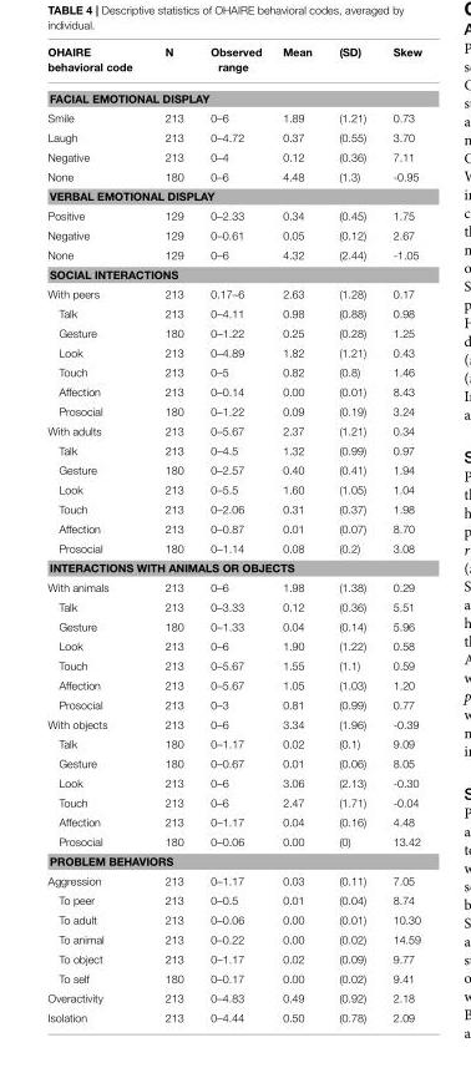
<table><thead><tr><td>OHAIRE behavioral code</td><td>N</td><td>Observed range</td><td>Mean</td><td>(SD)</td><td>Skew</td></tr></thead><tbody><tr><td colspan="6">FACIAL EMOTIONAL DISPLAY</td></tr><tr><td>Smile</td><td>213</td><td>0–6</td><td>1.89</td><td>(1.21)</td><td>0.73</td></tr><tr><td>Laugh</td><td>213</td><td>0–4.72</td><td>0.37</td><td>(0.55)</td><td>3.70</td></tr><tr><td>Negative</td><td>213</td><td>0–4</td><td>0.12</td><td>(0.36)</td><td>7.11</td></tr><tr><td>None</td><td>180</td><td>0–6</td><td>4.48</td><td>(1.3)</td><td>-0.95</td></tr><tr><td colspan="6">VERBAL EMOTIONAL DISPLAY</td></tr><tr><td>Positive</td><td>129</td><td>0–2.33</td><td>0.34</td><td>(0.45)</td><td>1.75</td></tr><tr><td>Negative</td><td>129</td><td>0–0.61</td><td>0.05</td><td>(0.12)</td><td>2.67</td></tr><tr><td>None</td><td>129</td><td>0–6</td><td>4.32</td><td>(2.44)</td><td>-1.05</td></tr><tr><td colspan="6">SOCIAL INTERACTIONS</td></tr><tr><td>With peers</td><td>213</td><td>0.17–6</td><td>2.63</td><td>(1.28)</td><td>0.17</td></tr><tr><td>Talk</td><td>213</td><td>0–4.11</td><td>0.98</td><td>(0.88)</td><td>0.98</td></tr><tr><td>Gesture</td><td>180</td><td>0–1.22</td><td>0.25</td><td>(0.28)</td><td>1.25</td></tr><tr><td>Look</td><td>213</td><td>0–4.89</td><td>1.82</td><td>(1.21)</td><td>0.43</td></tr><tr><td>Touch</td><td>213</td><td>0–5</td><td>0.82</td><td>(0.8)</td><td>1.46</td></tr><tr><td>Affection</td><td>213</td><td>0–0.14</td><td>0.00</td><td>(0.01)</td><td>8.43</td></tr><tr><td>Prosocial</td><td>180</td><td>0–1.22</td><td>0.09</td><td>(0.19)</td><td>3.24</td></tr><tr><td>With adults</td><td>213</td><td>0–5.67</td><td>2.37</td><td>(1.21)</td><td>0.34</td></tr><tr><td>Talk</td><td>213</td><td>0–4.5</td><td>1.32</td><td>(0.99)</td><td>0.97</td></tr><tr><td>Gesture</td><td>180</td><td>0–2.57</td><td>0.40</td><td>(0.41)</td><td>1.94</td></tr><tr><td>Look</td><td>213</td><td>0–5.5</td><td>1.60</td><td>(1.05)</td><td>1.04</td></tr><tr><td>Touch</td><td>213</td><td>0–2.06</td><td>0.31</td><td>(0.37)</td><td>1.98</td></tr><tr><td>Affection</td><td>213</td><td>0–0.87</td><td>0.01</td><td>(0.07)</td><td>8.70</td></tr><tr><td>Prosocial</td><td>180</td><td>0–1.14</td><td>0.08</td><td>(0.2)</td><td>3.08</td></tr><tr><td colspan="6">INTERACTIONS WITH ANIMALS OR OBJECTS</td></tr><tr><td>With animals</td><td>213</td><td>0–6</td><td>1.98</td><td>(1.38)</td><td>0.29</td></tr><tr><td>Talk</td><td>213</td><td>0–3.33</td><td>0.12</td><td>(0.36)</td><td>5.51</td></tr><tr><td>Gesture</td><td>180</td><td>0–1.33</td><td>0.04</td><td>(0.14)</td><td>5.96</td></tr><tr><td>Look</td><td>213</td><td>0–6</td><td>1.90</td><td>(1.22)</td><td>0.58</td></tr><tr><td>Touch</td><td>213</td><td>0–5.67</td><td>1.55</td><td>(1.1)</td><td>0.59</td></tr><tr><td>Affection</td><td>213</td><td>0–5.67</td><td>1.05</td><td>(1.03)</td><td>1.20</td></tr><tr><td>Prosocial</td><td>213</td><td>0–3</td><td>0.81</td><td>(0.99)</td><td>0.77</td></tr><tr><td>With objects</td><td>213</td><td>0–6</td><td>3.34</td><td>(1.96)</td><td>-0.39</td></tr><tr><td>Talk</td><td>180</td><td>0–1.17</td><td>0.02</td><td>(0.1)</td><td>9.09</td></tr><tr><td>Gesture</td><td>180</td><td>0–0.67</td><td>0.01</td><td>(0.06)</td><td>8.05</td></tr><tr><td>Look</td><td>213</td><td>0–6</td><td>3.06</td><td>(2.13)</td><td>-0.30</td></tr><tr><td>Touch</td><td>213</td><td>0–6</td><td>2.47</td><td>(1.71)</td><td>-0.04</td></tr><tr><td>Affection</td><td>213</td><td>0–1.17</td><td>0.04</td><td>(0.16)</td><td>4.48</td></tr><tr><td>Prosocial</td><td>180</td><td>0–0.06</td><td>0.00</td><td>(0)</td><td>13.42</td></tr><tr><td colspan="6">PROBLEM BEHAVIORS</td></tr><tr><td>Aggression</td><td>213</td><td>0–1.17</td><td>0.03</td><td>(0.11)</td><td>7.05</td></tr><tr><td>To peer</td><td>213</td><td>0–0.5</td><td>0.01</td><td>(0.04)</td><td>8.74</td></tr><tr><td>To adult</td><td>213</td><td>0–0.06</td><td>0.00</td><td>(0.01)</td><td>10.30</td></tr><tr><td>To animal</td><td>213</td><td>0–0.22</td><td>0.00</td><td>(0.02)</td><td>14.59</td></tr><tr><td>To object</td><td>213</td><td>0–1.17</td><td>0.02</td><td>(0.09)</td><td>9.77</td></tr><tr><td>To self</td><td>180</td><td>0–0.17</td><td>0.00</td><td>(0.02)</td><td>9.41</td></tr><tr><td>Overactivity</td><td>213</td><td>0–4.83</td><td>0.49</td><td>(0.92)</td><td>2.18</td></tr><tr><td>Isolation</td><td>213</td><td>0–4.44</td><td>0.50</td><td>(0.78)</td><td>2.09</td></tr></tbody></table>